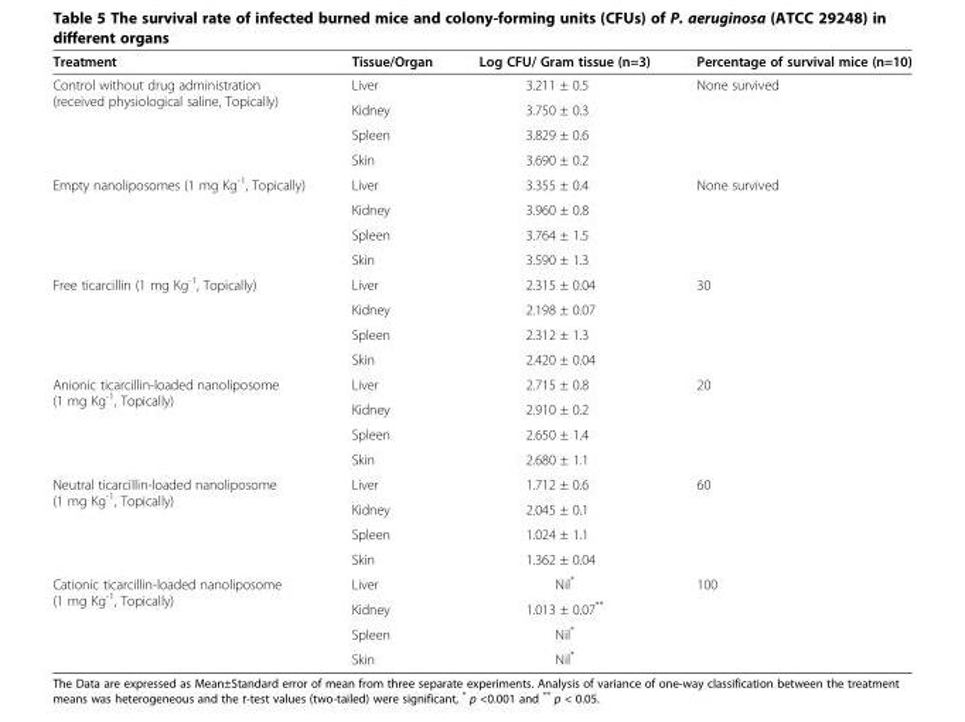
<table><thead><tr><td>Treatment</td><td>Tissue/Organ</td><td>Log CFU/ Gram tissue (n=3)</td><td>Percentage of survival mice (n=10)</td></tr></thead><tbody><tr><td rowspan="4">Control without drug administration (received physiological saline, Topically)</td><td>Liver</td><td>3.211 ± 0.5</td><td rowspan="4">None survived</td></tr><tr><td>Kidney</td><td>3.750 ± 0.3</td></tr><tr><td>Spleen</td><td>3.829 ± 0.6</td></tr><tr><td>Skin</td><td>3.690 ± 0.2</td></tr><tr><td rowspan="4">Empty nanoliposomes (1 mg Kg<sup>-1</sup>, Topically)</td><td>Liver</td><td>3.355 ± 0.4</td><td rowspan="4">None survived</td></tr><tr><td>Kidney</td><td>3.960 ± 0.8</td></tr><tr><td>Spleen</td><td>3.764 ± 1.5</td></tr><tr><td>Skin</td><td>3.590 ± 1.3</td></tr><tr><td rowspan="4">Free ticarcillin (1 mg Kg<sup>-1</sup>, Topically)</td><td>Liver</td><td>2.315 ± 0.04</td><td rowspan="4">30</td></tr><tr><td>Kidney</td><td>2.198 ± 0.07</td></tr><tr><td>Spleen</td><td>2.312 ± 1.3</td></tr><tr><td>Skin</td><td>2.420 ± 0.04</td></tr><tr><td rowspan="4">Anionic ticarcillin-loaded nanoliposome (1 mg Kg<sup>-1</sup>, Topically)</td><td>Liver</td><td>2.715 ± 0.8</td><td rowspan="4">20</td></tr><tr><td>Kidney</td><td>2.910 ± 0.2</td></tr><tr><td>Spleen</td><td>2.650 ± 1.4</td></tr><tr><td>Skin</td><td>2.680 ± 1.1</td></tr><tr><td rowspan="4">Neutral ticarcillin-loaded nanoliposome (1 mg Kg<sup>-1</sup>, Topically)</td><td>Liver</td><td>1.712 ± 0.6</td><td rowspan="4">60</td></tr><tr><td>Kidney</td><td>2.045 ± 0.1</td></tr><tr><td>Spleen</td><td>1.024 ± 1.1</td></tr><tr><td>Skin</td><td>1.362 ± 0.04</td></tr><tr><td rowspan="4">Cationic ticarcillin-loaded nanoliposome (1 mg Kg<sup>-1</sup>, Topically)</td><td>Liver</td><td>Nil*</td><td rowspan="3">100</td></tr><tr><td>Kidney</td><td>1.013 ± 0.07**</td></tr><tr><td>Spleen</td><td>Nil*</td></tr><tr><td>Skin</td><td>Nil*</td><td></td></tr></tbody></table>